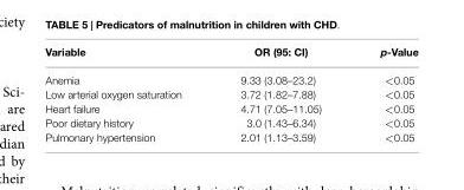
<table><thead><tr><td>Variable</td><td>OR (95: CI)</td><td>p-Value</td></tr></thead><tbody><tr><td>Anemia</td><td>9.33 (3.08–23.2)</td><td>&lt;0.05</td></tr><tr><td>Low arterial oxygen saturation</td><td>3.72 (1.82–7.88)</td><td>&lt;0.05</td></tr><tr><td>Heart failure</td><td>4.71 (7.05–11.05)</td><td>&lt;0.05</td></tr><tr><td>Poor dietary history</td><td>3.0 (1.43–6.34)</td><td>&lt;0.05</td></tr><tr><td>Pulmonary hypertension</td><td>2.01 (1.13–3.59)</td><td>&lt;0.05</td></tr></tbody></table>